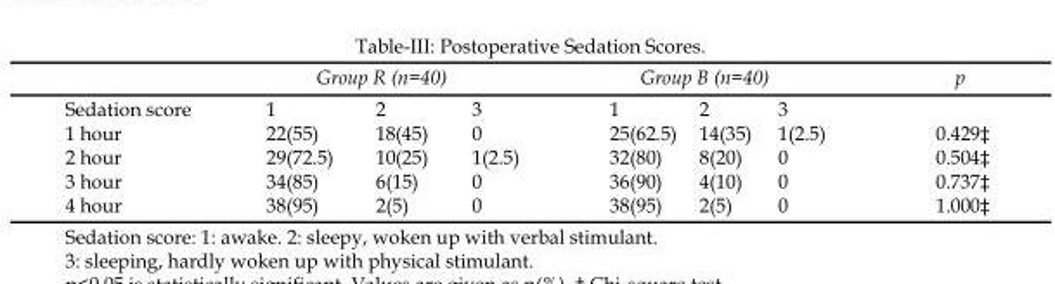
<table><thead><tr><td rowspan="2">Sedation score</td><td colspan="3">Group R (n=40)</td><td colspan="3">Group B (n=40)</td><td rowspan="2">p</td></tr><tr><td>1</td><td>2</td><td>3</td><td>1</td><td>2</td><td>3</td></tr></thead><tbody><tr><td>1 hour</td><td>22(55)</td><td>18(45)</td><td>0</td><td>25(62.5)</td><td>14(35)</td><td>1(2.5)</td><td>0.429‡</td></tr><tr><td>2 hour</td><td>29(72.5)</td><td>10(25)</td><td>1(2.5)</td><td>32(80)</td><td>8(20)</td><td>0</td><td>0.504‡</td></tr><tr><td>3 hour</td><td>34(85)</td><td>6(15)</td><td>0</td><td>36(90)</td><td>4(10)</td><td>0</td><td>0.737‡</td></tr><tr><td>4 hour</td><td>38(95)</td><td>2(5)</td><td>0</td><td>38(95)</td><td>2(5)</td><td>0</td><td>1.000‡</td></tr></tbody></table>